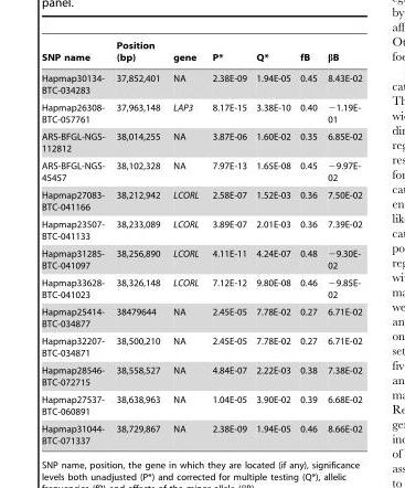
<table><thead><tr><td>SNP name</td><td>Position (bp)</td><td>gene</td><td>P*</td><td>Q*</td><td>fB</td><td>βB</td></tr></thead><tbody><tr><td>Hapmap30134- BTC-034283</td><td>37,852,401</td><td>NA</td><td>2.38E-09</td><td>1.94E-05</td><td>0.45</td><td>8.43E-02</td></tr><tr><td>Hapmap26308- BTC-057761</td><td>37,963,148</td><td>LAP3</td><td>8.17E-15</td><td>3.38E-10</td><td>0.40</td><td>−1.19E- 01</td></tr><tr><td>ARS-BFGL-NGS- 112812</td><td>38,014,255</td><td>NA</td><td>3.87E-06</td><td>1.60E-02</td><td>0.35</td><td>6.85E-02</td></tr><tr><td>ARS-BFGL-NGS- 45457</td><td>38,102,328</td><td>NA</td><td>7.97E-13</td><td>1.65E-08</td><td>0.45</td><td>−9.97E- 02</td></tr><tr><td>Hapmap27083- BTC-041166</td><td>38,212,942</td><td>LCORL</td><td>2.58E-07</td><td>1.52E-03</td><td>0.36</td><td>7.50E-02</td></tr><tr><td>Hapmap23507- BTC-041133</td><td>38,233,089</td><td>LCORL</td><td>3.89E-07</td><td>2.01E-03</td><td>0.36</td><td>7.39E-02</td></tr><tr><td>Hapmap31285- BTC-041097</td><td>38,256,890</td><td>LCORL</td><td>4.11E-11</td><td>4.24E-07</td><td>0.48</td><td>−9.30E- 02</td></tr><tr><td>Hapmap33628- BTC-041023</td><td>38,326,148</td><td>LCORL</td><td>7.12E-12</td><td>9.80E-08</td><td>0.46</td><td>−9.85E- 02</td></tr><tr><td>Hapmap25414- BTC-034877</td><td>38479644</td><td>NA</td><td>2.45E-05</td><td>7.78E-02</td><td>0.27</td><td>6.71E-02</td></tr><tr><td>Hapmap32207- BTC-034871</td><td>38,500,210</td><td>NA</td><td>2.45E-05</td><td>7.78E-02</td><td>0.27</td><td>6.71E-02</td></tr><tr><td>Hapmap28546- BTC-072715</td><td>38,558,527</td><td>NA</td><td>4.84E-07</td><td>2.22E-03</td><td>0.38</td><td>7.38E-02</td></tr><tr><td>Hapmap27537- BTC-060891</td><td>38,638,963</td><td>NA</td><td>1.04E-05</td><td>3.90E-02</td><td>0.39</td><td>6.68E-02</td></tr><tr><td>Hapmap31044- BTC-071337</td><td>38,729,867</td><td>NA</td><td>2.38E-09</td><td>1.94E-05</td><td>0.46</td><td>8.66E-02</td></tr></tbody></table>